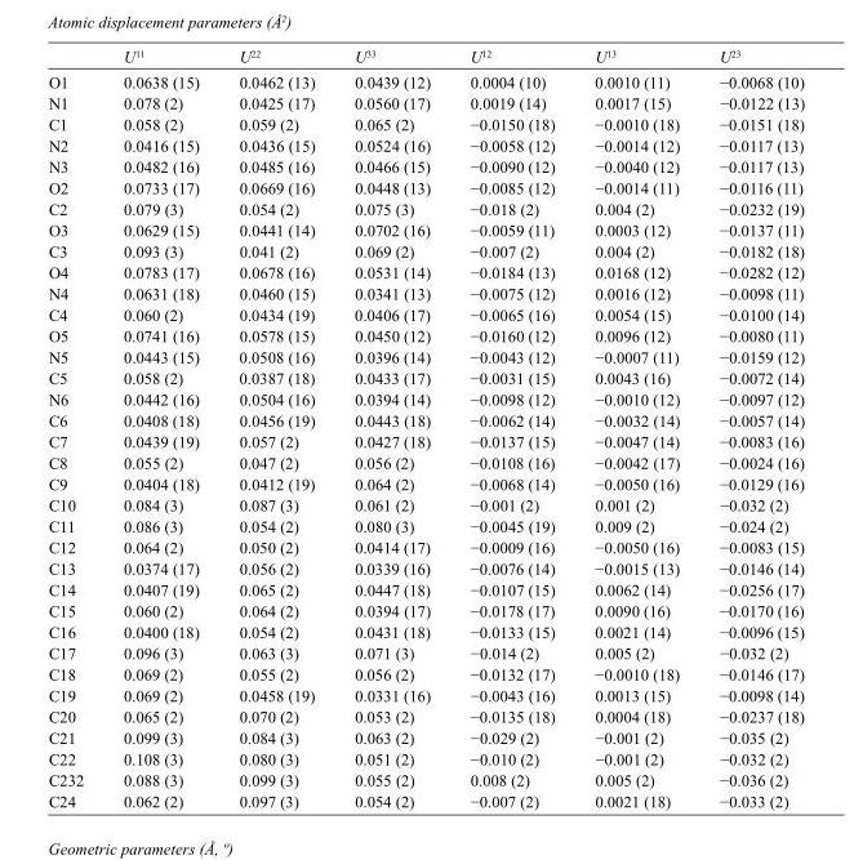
<table><thead><tr><td></td><td>U<sup>11</sup></td><td>U<sup>22</sup></td><td>U<sup>33</sup></td><td>U<sup>12</sup></td><td>U<sup>13</sup></td><td>U<sup>23</sup></td></tr></thead><tbody><tr><td>O1</td><td>0.0638 (15)</td><td>0.0462 (13)</td><td>0.0439 (12)</td><td>0.0004 (10)</td><td>0.0010 (11)</td><td>−0.0068 (10)</td></tr><tr><td>N1</td><td>0.078 (2)</td><td>0.0425 (17)</td><td>0.0560 (17)</td><td>0.0019 (14)</td><td>0.0017 (15)</td><td>−0.0122 (13)</td></tr><tr><td>C1</td><td>0.058 (2)</td><td>0.059 (2)</td><td>0.065 (2)</td><td>−0.0150 (18)</td><td>−0.0010 (18)</td><td>−0.0151 (18)</td></tr><tr><td>N2</td><td>0.0416 (15)</td><td>0.0436 (15)</td><td>0.0524 (16)</td><td>−0.0058 (12)</td><td>−0.0014 (12)</td><td>−0.0117 (13)</td></tr><tr><td>N3</td><td>0.0482 (16)</td><td>0.0485 (16)</td><td>0.0466 (15)</td><td>−0.0090 (12)</td><td>−0.0040 (12)</td><td>−0.0117 (13)</td></tr><tr><td>O2</td><td>0.0733 (17)</td><td>0.0669 (16)</td><td>0.0448 (13)</td><td>−0.0085 (12)</td><td>−0.0014 (11)</td><td>−0.0116 (11)</td></tr><tr><td>C2</td><td>0.079 (3)</td><td>0.054 (2)</td><td>0.075 (3)</td><td>−0.018 (2)</td><td>0.004 (2)</td><td>−0.0232 (19)</td></tr><tr><td>O3</td><td>0.0629 (15)</td><td>0.0441 (14)</td><td>0.0702 (16)</td><td>−0.0059 (11)</td><td>0.0003 (12)</td><td>−0.0137 (11)</td></tr><tr><td>C3</td><td>0.093 (3)</td><td>0.041 (2)</td><td>0.069 (2)</td><td>−0.007 (2)</td><td>0.004 (2)</td><td>−0.0182 (18)</td></tr><tr><td>O4</td><td>0.0783 (17)</td><td>0.0678 (16)</td><td>0.0531 (14)</td><td>−0.0184 (13)</td><td>0.0168 (12)</td><td>−0.0282 (12)</td></tr><tr><td>N4</td><td>0.0631 (18)</td><td>0.0460 (15)</td><td>0.0341 (13)</td><td>−0.0075 (12)</td><td>0.0016 (12)</td><td>−0.0098 (11)</td></tr><tr><td>C4</td><td>0.060 (2)</td><td>0.0434 (19)</td><td>0.0406 (17)</td><td>−0.0065 (16)</td><td>0.0054 (15)</td><td>−0.0100 (14)</td></tr><tr><td>O5</td><td>0.0741 (16)</td><td>0.0578 (15)</td><td>0.0450 (12)</td><td>−0.0160 (12)</td><td>0.0096 (12)</td><td>−0.0080 (11)</td></tr><tr><td>N5</td><td>0.0443 (15)</td><td>0.0508 (16)</td><td>0.0396 (14)</td><td>−0.0043 (12)</td><td>−0.0007 (11)</td><td>−0.0159 (12)</td></tr><tr><td>C5</td><td>0.058 (2)</td><td>0.0387 (18)</td><td>0.0433 (17)</td><td>−0.0031 (15)</td><td>0.0043 (16)</td><td>−0.0072 (14)</td></tr><tr><td>N6</td><td>0.0442 (16)</td><td>0.0504 (16)</td><td>0.0394 (14)</td><td>−0.0098 (12)</td><td>−0.0010 (12)</td><td>−0.0097 (12)</td></tr><tr><td>C6</td><td>0.0408 (18)</td><td>0.0456 (19)</td><td>0.0443 (18)</td><td>−0.0062 (14)</td><td>−0.0032 (14)</td><td>−0.0057 (14)</td></tr><tr><td>C7</td><td>0.0439 (19)</td><td>0.057 (2)</td><td>0.0427 (18)</td><td>−0.0137 (15)</td><td>−0.0047 (14)</td><td>−0.0083 (16)</td></tr><tr><td>C8</td><td>0.055 (2)</td><td>0.047 (2)</td><td>0.056 (2)</td><td>−0.0108 (16)</td><td>−0.0042 (17)</td><td>−0.0024 (16)</td></tr><tr><td>C9</td><td>0.0404 (18)</td><td>0.0412 (19)</td><td>0.064 (2)</td><td>−0.0068 (14)</td><td>−0.0050 (16)</td><td>−0.0129 (16)</td></tr><tr><td>C10</td><td>0.084 (3)</td><td>0.087 (3)</td><td>0.061 (2)</td><td>−0.001 (2)</td><td>0.001 (2)</td><td>−0.032 (2)</td></tr><tr><td>C11</td><td>0.086 (3)</td><td>0.054 (2)</td><td>0.080 (3)</td><td>−0.0045 (19)</td><td>0.009 (2)</td><td>−0.024 (2)</td></tr><tr><td>C12</td><td>0.064 (2)</td><td>0.050 (2)</td><td>0.0414 (17)</td><td>−0.0009 (16)</td><td>−0.0050 (16)</td><td>−0.0083 (15)</td></tr><tr><td>C13</td><td>0.0374 (17)</td><td>0.056 (2)</td><td>0.0339 (16)</td><td>−0.0076 (14)</td><td>−0.0015 (13)</td><td>−0.0146 (14)</td></tr><tr><td>C14</td><td>0.0407 (19)</td><td>0.065 (2)</td><td>0.0447 (18)</td><td>−0.0107 (15)</td><td>0.0062 (14)</td><td>−0.0256 (17)</td></tr><tr><td>C15</td><td>0.060 (2)</td><td>0.064 (2)</td><td>0.0394 (17)</td><td>−0.0178 (17)</td><td>0.0090 (16)</td><td>−0.0170 (16)</td></tr><tr><td>C16</td><td>0.0400 (18)</td><td>0.054 (2)</td><td>0.0431 (18)</td><td>−0.0133 (15)</td><td>0.0021 (14)</td><td>−0.0096 (15)</td></tr><tr><td>C17</td><td>0.096 (3)</td><td>0.063 (3)</td><td>0.071 (3)</td><td>−0.014 (2)</td><td>0.005 (2)</td><td>−0.032 (2)</td></tr><tr><td>C18</td><td>0.069 (2)</td><td>0.055 (2)</td><td>0.056 (2)</td><td>−0.0132 (17)</td><td>−0.0010 (18)</td><td>−0.0146 (17)</td></tr><tr><td>C19</td><td>0.069 (2)</td><td>0.0458 (19)</td><td>0.0331 (16)</td><td>−0.0043 (16)</td><td>0.0013 (15)</td><td>−0.0098 (14)</td></tr><tr><td>C20</td><td>0.065 (2)</td><td>0.070 (2)</td><td>0.053 (2)</td><td>−0.0135 (18)</td><td>0.0004 (18)</td><td>−0.0237 (18)</td></tr><tr><td>C21</td><td>0.099 (3)</td><td>0.084 (3)</td><td>0.063 (2)</td><td>−0.029 (2)</td><td>−0.001 (2)</td><td>−0.035 (2)</td></tr><tr><td>C22</td><td>0.108 (3)</td><td>0.080 (3)</td><td>0.051 (2)</td><td>−0.010 (2)</td><td>−0.001 (2)</td><td>−0.032 (2)</td></tr><tr><td>C232</td><td>0.088 (3)</td><td>0.099 (3)</td><td>0.055 (2)</td><td>0.008 (2)</td><td>0.005 (2)</td><td>−0.036 (2)</td></tr><tr><td>C24</td><td>0.062 (2)</td><td>0.097 (3)</td><td>0.054 (2)</td><td>−0.007 (2)</td><td>0.0021 (18)</td><td>−0.033 (2)</td></tr></tbody></table>